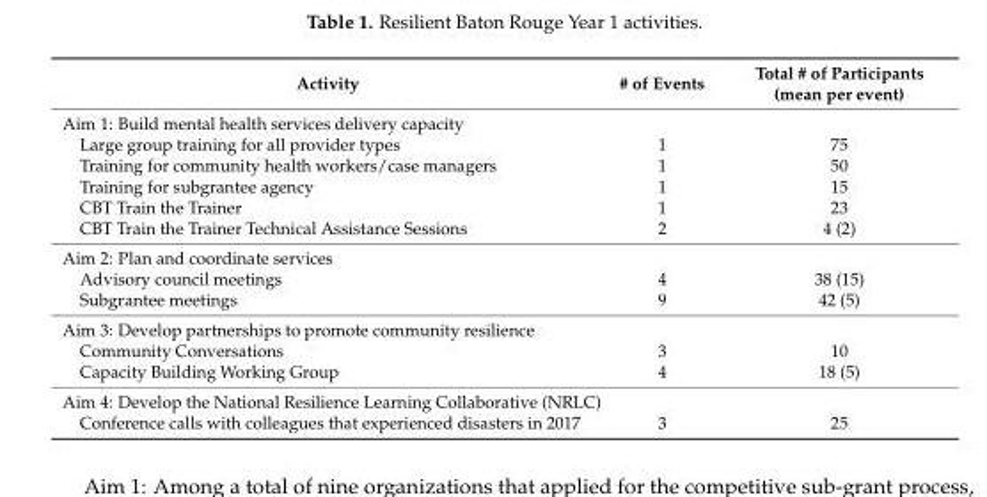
<table><thead><tr><td>Activity</td><td># of Events</td><td>Total # of Participants (mean per event)</td></tr></thead><tbody><tr><td colspan="3">Aim 1: Build mental health services delivery capacity</td></tr><tr><td>Large group training for all provider types</td><td>1</td><td>75</td></tr><tr><td>Training for community health workers/case managers</td><td>1</td><td>50</td></tr><tr><td>Training for subgrantee agency</td><td>1</td><td>15</td></tr><tr><td>CBT Train the Trainer</td><td>1</td><td>23</td></tr><tr><td>CBT Train the Trainer Technical Assistance Sessions</td><td>2</td><td>4 (2)</td></tr><tr><td colspan="3">Aim 2: Plan and coordinate services</td></tr><tr><td>Advisory council meetings</td><td>4</td><td>38 (15)</td></tr><tr><td>Subgrantee meetings</td><td>9</td><td>42 (5)</td></tr><tr><td colspan="3">Aim 3: Develop partnerships to promote community resilience</td></tr><tr><td>Community Conversations</td><td>3</td><td>10</td></tr><tr><td>Capacity Building Working Group</td><td>4</td><td>18 (5)</td></tr><tr><td colspan="3">Aim 4: Develop the National Resilience Learning Collaborative (NRLC)</td></tr><tr><td>Conference calls with colleagues that experienced disasters in 2017</td><td>3</td><td>25</td></tr></tbody></table>